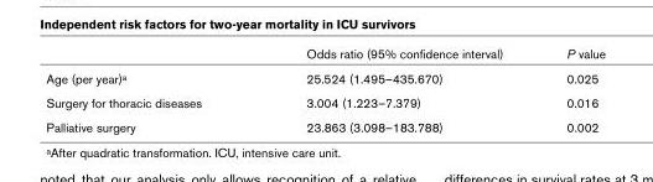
<table><thead><tr><td></td><td>Odds ratio (95% confidence interval)</td><td>P value</td></tr></thead><tbody><tr><td>Age (per year)<sup>a</sup></td><td>25.524 (1.495–435.670)</td><td>0.025</td></tr><tr><td>Surgery for thoracic diseases</td><td>3.004 (1.223–7.379)</td><td>0.016</td></tr><tr><td>Palliative surgery</td><td>23.863 (3.098–183.788)</td><td>0.002</td></tr></tbody></table>